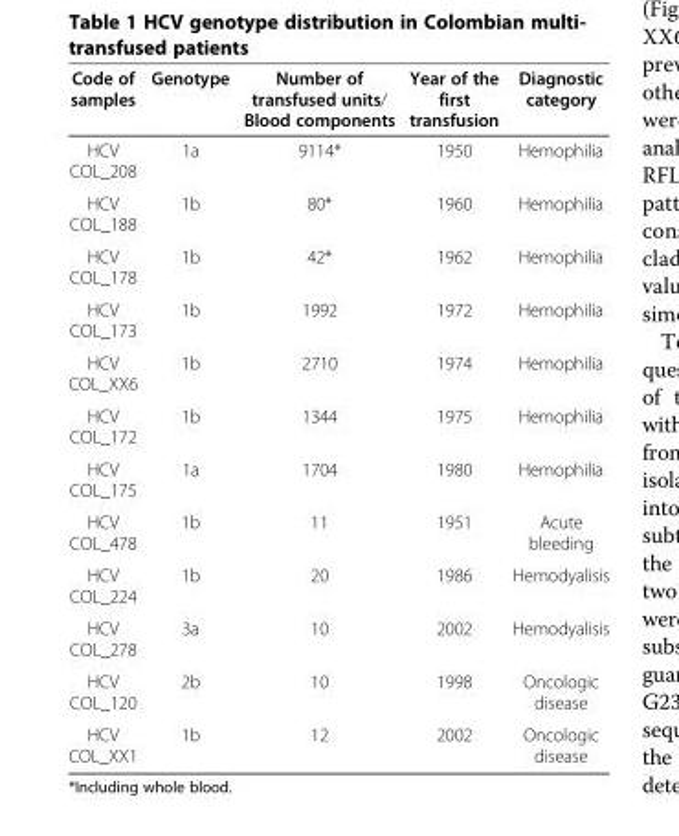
<table><thead><tr><td>Code of samples</td><td>Genotype</td><td>Number of transfused units/ Blood components</td><td>Year of the first transfusion</td><td>Diagnostic category</td></tr></thead><tbody><tr><td>HCV COL_208</td><td>1a</td><td>9114*</td><td>1950</td><td>Hemophilia</td></tr><tr><td>HCV COL_188</td><td>1b</td><td>80*</td><td>1960</td><td>Hemophilia</td></tr><tr><td>HCV COL_178</td><td>1b</td><td>42*</td><td>1962</td><td>Hemophilia</td></tr><tr><td>HCV COL_173</td><td>1b</td><td>1992</td><td>1972</td><td>Hemophilia</td></tr><tr><td>HCV COL_XX6</td><td>1b</td><td>2710</td><td>1974</td><td>Hemophilia</td></tr><tr><td>HCV COL_172</td><td>1b</td><td>1344</td><td>1975</td><td>Hemophilia</td></tr><tr><td>HCV COL_175</td><td>1a</td><td>1704</td><td>1980</td><td>Hemophilia</td></tr><tr><td>HCV COL_478</td><td>1b</td><td>11</td><td>1951</td><td>Acute bleeding</td></tr><tr><td>HCV COL_224</td><td>1b</td><td>20</td><td>1986</td><td>Hemodyalisis</td></tr><tr><td>HCV COL_278</td><td>3a</td><td>10</td><td>2002</td><td>Hemodyalisis</td></tr><tr><td>HCV COL_120</td><td>2b</td><td>10</td><td>1998</td><td>Oncologic disease</td></tr><tr><td>HCV COL_XX1</td><td>1b</td><td>12</td><td>2002</td><td>Oncologic disease</td></tr></tbody></table>